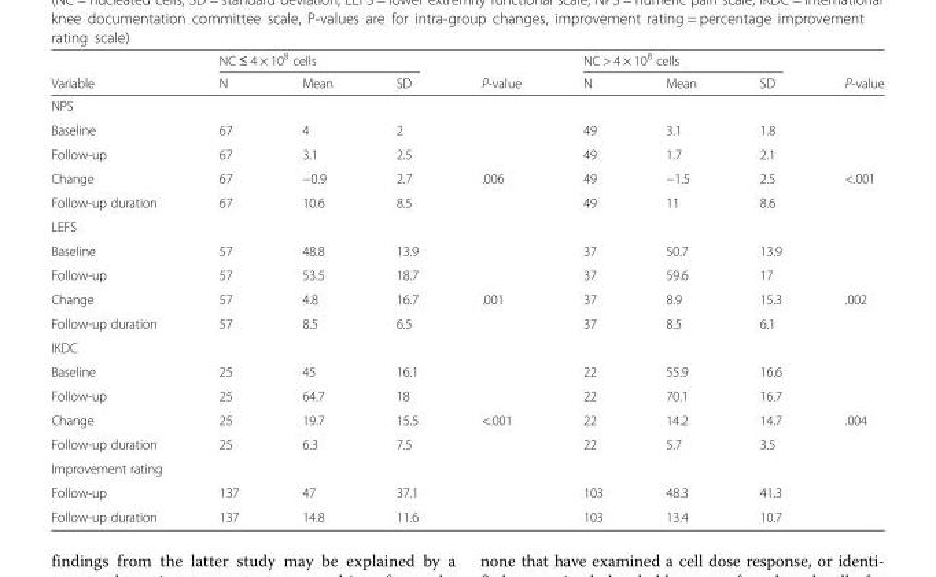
<table><thead><tr><td rowspan="2">Variable</td><td colspan="3">NC ≤ 4 × 10<sup>8</sup> cells</td><td rowspan="2">P-value</td><td colspan="3">NC &gt; 4 × 10<sup>8</sup> cells</td><td rowspan="2">P-value</td></tr><tr><td>N</td><td>Mean</td><td>SD</td><td>N</td><td>Mean</td><td>SD</td></tr></thead><tbody><tr><td colspan="9">NPS</td></tr><tr><td>Baseline</td><td>67</td><td>4</td><td>2</td><td></td><td>49</td><td>3.1</td><td>1.8</td><td></td></tr><tr><td>Follow-up</td><td>67</td><td>3.1</td><td>2.5</td><td></td><td>49</td><td>1.7</td><td>2.1</td><td></td></tr><tr><td>Change</td><td>67</td><td>−0.9</td><td>2.7</td><td>.006</td><td>49</td><td>−1.5</td><td>2.5</td><td>&lt;.001</td></tr><tr><td>Follow-up duration</td><td>67</td><td>10.6</td><td>8.5</td><td></td><td>49</td><td>11</td><td>8.6</td><td></td></tr><tr><td colspan="9">LEFS</td></tr><tr><td>Baseline</td><td>57</td><td>48.8</td><td>13.9</td><td></td><td>37</td><td>50.7</td><td>13.9</td><td></td></tr><tr><td>Follow-up</td><td>57</td><td>53.5</td><td>18.7</td><td></td><td>37</td><td>59.6</td><td>17</td><td></td></tr><tr><td>Change</td><td>57</td><td>4.8</td><td>16.7</td><td>.001</td><td>37</td><td>8.9</td><td>15.3</td><td>.002</td></tr><tr><td>Follow-up duration</td><td>57</td><td>8.5</td><td>6.5</td><td></td><td>37</td><td>8.5</td><td>6.1</td><td></td></tr><tr><td colspan="9">IKDC</td></tr><tr><td>Baseline</td><td>25</td><td>45</td><td>16.1</td><td></td><td>22</td><td>55.9</td><td>16.6</td><td></td></tr><tr><td>Follow-up</td><td>25</td><td>64.7</td><td>18</td><td></td><td>22</td><td>70.1</td><td>16.7</td><td></td></tr><tr><td>Change</td><td>25</td><td>19.7</td><td>15.5</td><td>&lt;.001</td><td>22</td><td>14.2</td><td>14.7</td><td>.004</td></tr><tr><td>Follow-up duration</td><td>25</td><td>6.3</td><td>7.5</td><td></td><td>22</td><td>5.7</td><td>3.5</td><td></td></tr><tr><td colspan="9">Improvement rating</td></tr><tr><td>Follow-up</td><td>137</td><td>47</td><td>37.1</td><td></td><td>103</td><td>48.3</td><td>41.3</td><td></td></tr><tr><td>Follow-up duration</td><td>137</td><td>14.8</td><td>11.6</td><td></td><td>103</td><td>13.4</td><td>10.7</td><td></td></tr></tbody></table>